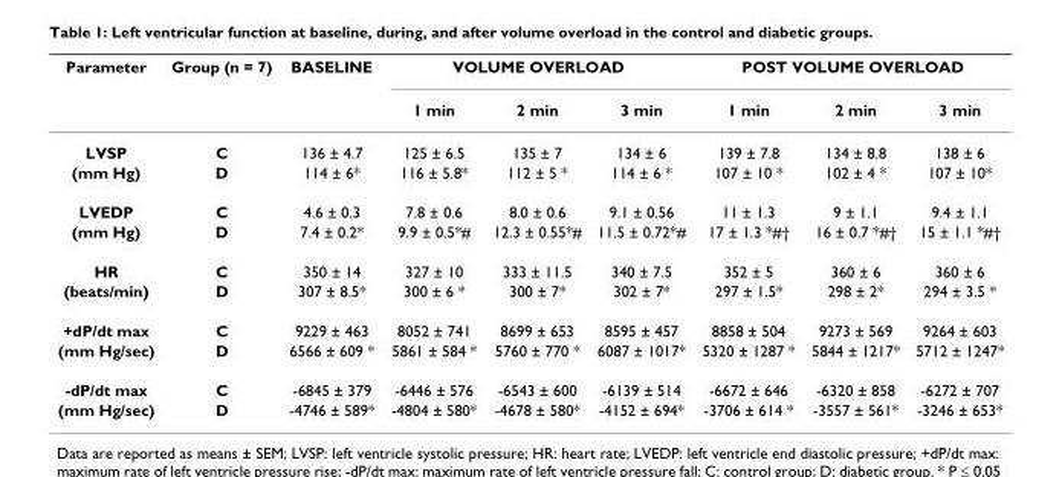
<table><thead><tr><td rowspan="2">Parameter</td><td rowspan="2">Group (n = 7)</td><td rowspan="2">BASELINE</td><td colspan="3">VOLUME OVERLOAD</td><td colspan="3">POST VOLUME OVERLOAD</td></tr><tr><td>1 min</td><td>2 min</td><td>3 min</td><td>1 min</td><td>2 min</td><td>3 min</td></tr></thead><tbody><tr><td>LVSP</td><td>C</td><td>136 ± 4.7</td><td>125 ± 6.5</td><td>135 ± 7</td><td>134 ± 6</td><td>139 ± 7.8</td><td>134 ± 8.8</td><td>138 ± 6</td></tr><tr><td>(mm Hg)</td><td>D</td><td>114 ± 6*</td><td>116 ± 5.8*</td><td>112 ± 5 *</td><td>114 ± 6 *</td><td>107 ± 10 *</td><td>102 ± 4 *</td><td>107 ± 10*</td></tr><tr><td>LVEDP</td><td>C</td><td>4.6 ± 0.3</td><td>7.8 ± 0.6</td><td>8.0 ± 0.6</td><td>9.1 ± 0.56</td><td>11 ± 1.3</td><td>9 ± 1.1</td><td>9.4 ± 1.1</td></tr><tr><td>(mm Hg)</td><td>D</td><td>7.4 ± 0.2*</td><td>9.9 ± 0.5*#</td><td>12.3 ± 0.55*#</td><td>11.5 ± 0.72*#</td><td>17 ± 1.3 *#†</td><td>16 ± 0.7 *#†</td><td>15 ± 1.1 *#†</td></tr><tr><td>HR</td><td>C</td><td>350 ± 14</td><td>327 ± 10</td><td>333 ± 11.5</td><td>340 ± 7.5</td><td>352 ± 5</td><td>360 ± 6</td><td>360 ± 6</td></tr><tr><td>(beats/min)</td><td>D</td><td>307 ± 8.5*</td><td>300 ± 6 *</td><td>300 ± 7*</td><td>302 ± 7*</td><td>297 ± 1.5*</td><td>298 ± 2*</td><td>294 ± 3.5 *</td></tr><tr><td>+dP/dt max</td><td>C</td><td>9229 ± 463</td><td>8052 ± 741</td><td>8699 ± 653</td><td>8595 ± 457</td><td>8858 ± 504</td><td>9273 ± 569</td><td>9264 ± 603</td></tr><tr><td>(mm Hg/sec)</td><td>D</td><td>6566 ± 609 *</td><td>5861 ± 584 *</td><td>5760 ± 770 *</td><td>6087 ± 1017*</td><td>5320 ± 1287 *</td><td>5844 ± 1217*</td><td>5712 ± 1247*</td></tr><tr><td>-dP/dt max</td><td>C</td><td>-6845 ± 379</td><td>-6446 ± 576</td><td>-6543 ± 600</td><td>-6139 ± 514</td><td>-6672 ± 646</td><td>-6320 ± 858</td><td>-6272 ± 707</td></tr><tr><td>(mm Hg/sec)</td><td>D</td><td>-4746 ± 589*</td><td>-4804 ± 580*</td><td>-4678 ± 580*</td><td>-4152 ± 694*</td><td>-3706 ± 614 *</td><td>-3557 ± 561*</td><td>-3246 ± 653*</td></tr></tbody></table>